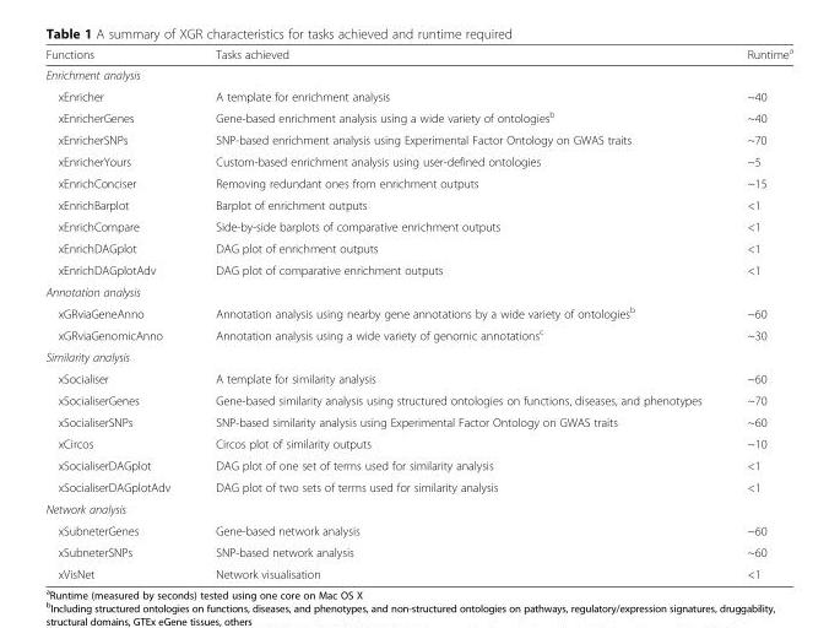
<table><thead><tr><td>Functions</td><td>Tasks achieved</td><td>Runtime<sup>a</sup></td></tr></thead><tbody><tr><td colspan="3">Enrichment analysis</td></tr><tr><td>xEnricher</td><td>A template for enrichment analysis</td><td>~40</td></tr><tr><td>xEnricherGenes</td><td>Gene-based enrichment analysis using a wide variety of ontologies<sup>b</sup></td><td>~40</td></tr><tr><td>xEnricherSNPs</td><td>SNP-based enrichment analysis using Experimental Factor Ontology on GWAS traits</td><td>~70</td></tr><tr><td>xEnricherYours</td><td>Custom-based enrichment analysis using user-defined ontologies</td><td>~5</td></tr><tr><td>xEnrichConciser</td><td>Removing redundant ones from enrichment outputs</td><td>~15</td></tr><tr><td>xEnrichBarplot</td><td>Barplot of enrichment outputs</td><td>&lt;1</td></tr><tr><td>xEnrichCompare</td><td>Side-by-side barplots of comparative enrichment outputs</td><td>&lt;1</td></tr><tr><td>xEnrichDAGplot</td><td>DAG plot of enrichment outputs</td><td>&lt;1</td></tr><tr><td>xEnrichDAGplotAdv</td><td>DAG plot of comparative enrichment outputs</td><td>&lt;1</td></tr><tr><td colspan="3">Annotation analysis</td></tr><tr><td>xGRviaGeneAnno</td><td>Annotation analysis using nearby gene annotations by a wide variety of ontologies<sup>b</sup></td><td>~60</td></tr><tr><td>xGRviaGenomicAnno</td><td>Annotation analysis using a wide variety of genomic annotations<sup>c</sup></td><td>~30</td></tr><tr><td colspan="3">Similarity analysis</td></tr><tr><td>xSocialiser</td><td>A template for similarity analysis</td><td>~60</td></tr><tr><td>xSocialiserGenes</td><td>Gene-based similarity analysis using structured ontologies on functions, diseases, and phenotypes</td><td>~70</td></tr><tr><td>xSocialiserSNPs</td><td>SNP-based similarity analysis using Experimental Factor Ontology on GWAS traits</td><td>~60</td></tr><tr><td>xCircos</td><td>Circos plot of similarity outputs</td><td>~10</td></tr><tr><td>xSocialiserDAGplot</td><td>DAG plot of one set of terms used for similarity analysis</td><td>&lt;1</td></tr><tr><td>xSocialiserDAGplotAdv</td><td>DAG plot of two sets of terms used for similarity analysis</td><td>&lt;1</td></tr><tr><td colspan="3">Network analysis</td></tr><tr><td>xSubneterGenes</td><td>Gene-based network analysis</td><td>~60</td></tr><tr><td>xSubneterSNPs</td><td>SNP-based network analysis</td><td>~60</td></tr><tr><td>xVisNet</td><td>Network visualisation</td><td>&lt;1</td></tr></tbody></table>